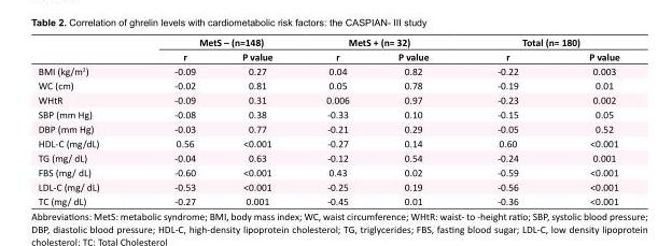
<table><thead><tr><td rowspan="2"></td><td colspan="2">MetS – (n=148)</td><td colspan="2">MetS + (n= 32)</td><td colspan="2">Total (n= 180)</td></tr><tr><td>r</td><td>P value</td><td>r</td><td>P value</td><td>r</td><td>P value</td></tr></thead><tbody><tr><td>BMI (kg/m<sup>2</sup>)</td><td>-0.09</td><td>0.27</td><td>0.04</td><td>0.82</td><td>-0.22</td><td>0.003</td></tr><tr><td>WC (cm)</td><td>-0.02</td><td>0.81</td><td>0.05</td><td>0.78</td><td>-0.19</td><td>0.01</td></tr><tr><td>WHtR</td><td>-0.09</td><td>0.31</td><td>0.006</td><td>0.97</td><td>-0.23</td><td>0.002</td></tr><tr><td>SBP (mm Hg)</td><td>-0.08</td><td>0.38</td><td>-0.33</td><td>0.10</td><td>-0.15</td><td>0.05</td></tr><tr><td>DBP (mm Hg)</td><td>-0.03</td><td>0.77</td><td>-0.21</td><td>0.29</td><td>-0.05</td><td>0.52</td></tr><tr><td>HDL-C (mg/dL)</td><td>0.56</td><td>&lt;0.001</td><td>-0.27</td><td>0.14</td><td>0.60</td><td>&lt;0.001</td></tr><tr><td>TG (mg/ dL)</td><td>-0.04</td><td>0.63</td><td>-0.12</td><td>0.54</td><td>-0.24</td><td>0.001</td></tr><tr><td>FBS (mg/ dL)</td><td>-0.60</td><td>&lt;0.001</td><td>0.43</td><td>0.02</td><td>-0.59</td><td>&lt;0.001</td></tr><tr><td>LDL-C (mg/ dL)</td><td>-0.53</td><td>&lt;0.001</td><td>-0.25</td><td>0.19</td><td>-0.56</td><td>&lt;0.001</td></tr><tr><td>TC (mg/ dL)</td><td>-0.27</td><td>0.001</td><td>-0.45</td><td>0.01</td><td>-0.36</td><td>&lt;0.001</td></tr></tbody></table>